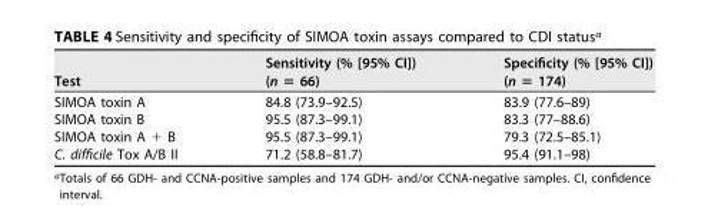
<table><thead><tr><td>Test</td><td>Sensitivity (% [95% CI]) (n = 66)</td><td>Specificity (% [95% CI]) (n = 174)</td></tr></thead><tbody><tr><td>SIMOA toxin A</td><td>84.8 (73.9–92.5)</td><td>83.9 (77.6–89)</td></tr><tr><td>SIMOA toxin B</td><td>95.5 (87.3–99.1)</td><td>83.3 (77–88.6)</td></tr><tr><td>SIMOA toxin A + B</td><td>95.5 (87.3–99.1)</td><td>79.3 (72.5–85.1)</td></tr><tr><td>C. difficile Tox A/B II</td><td>71.2 (58.8–81.7)</td><td>95.4 (91.1–98)</td></tr></tbody></table>